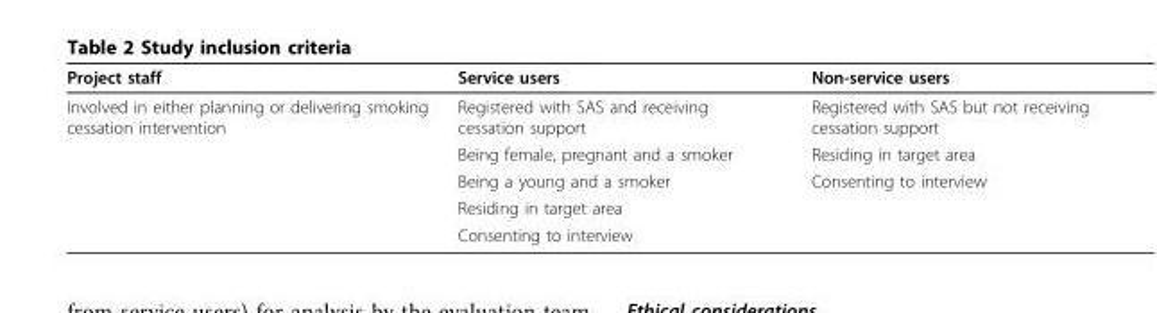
<table><thead><tr><td>Project staff</td><td>Service users</td><td>Non-service users</td></tr></thead><tbody><tr><td rowspan="5">Involved in either planning or delivering smoking cessation intervention</td><td>Registered with SAS and receiving cessation support</td><td>Registered with SAS but not receiving cessation support</td></tr><tr><td>Being female, pregnant and a smoker</td><td>Residing in target area</td></tr><tr><td>Being a young and a smoker</td><td>Consenting to interview</td></tr><tr><td>Residing in target area</td><td></td></tr><tr><td>Consenting to interview</td><td></td></tr></tbody></table>